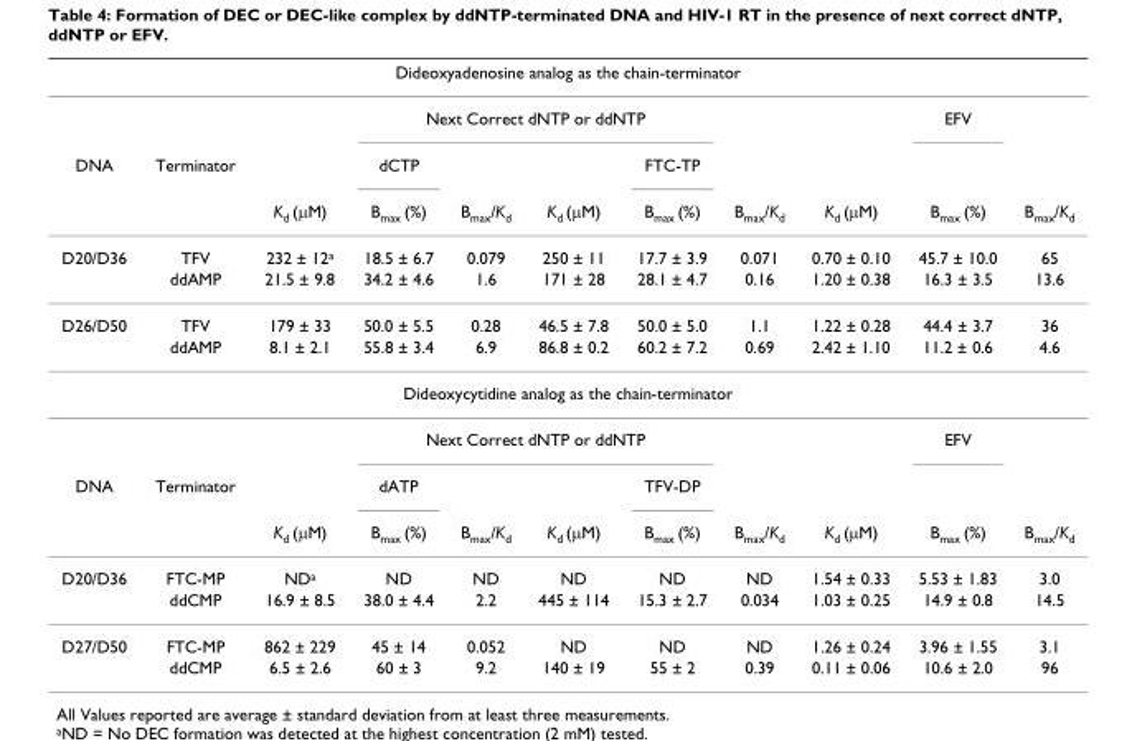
<table><thead><tr><td colspan="11">Dideoxyadenosine analog as the chain-terminator</td></tr><tr><td rowspan="2">DNA</td><td rowspan="2">Terminator</td><td rowspan="2"></td><td colspan="4">Next Correct dNTP or ddNTP</td><td rowspan="2"></td><td rowspan="2"></td><td rowspan="2">EFV</td><td rowspan="2"></td></tr><tr><td>dCTP</td><td></td><td></td><td>FTC-TP</td></tr></thead><tbody><tr><td></td><td></td><td>K<sub>d</sub> (μM)</td><td>B<sub>max</sub> (%)</td><td>B<sub>max</sub>/K<sub>d</sub></td><td>K<sub>d</sub> (μM)</td><td>B<sub>max</sub> (%)</td><td>B<sub>max</sub>/K<sub>d</sub></td><td>K<sub>d</sub> (μM)</td><td>B<sub>max</sub> (%)</td><td>B<sub>max</sub>/K<sub>d</sub></td></tr><tr><td rowspan="2">D20/D36</td><td>TFV</td><td>232 ± 12<sup>a</sup></td><td>18.5 ± 6.7</td><td>0.079</td><td>250 ± 11</td><td>17.7 ± 3.9</td><td>0.071</td><td>0.70 ± 0.10</td><td>45.7 ± 10.0</td><td>65</td></tr><tr><td>ddAMP</td><td>21.5 ± 9.8</td><td>34.2 ± 4.6</td><td>1.6</td><td>171 ± 28</td><td>28.1 ± 4.7</td><td>0.16</td><td>1.20 ± 0.38</td><td>16.3 ± 3.5</td><td>13.6</td></tr><tr><td rowspan="2">D26/D50</td><td>TFV</td><td>179 ± 33</td><td>50.0 ± 5.5</td><td>0.28</td><td>46.5 ± 7.8</td><td>50.0 ± 5.0</td><td>1.1</td><td>1.22 ± 0.28</td><td>44.4 ± 3.7</td><td>36</td></tr><tr><td>ddAMP</td><td>8.1 ± 2.1</td><td>55.8 ± 3.4</td><td>6.9</td><td>86.8 ± 0.2</td><td>60.2 ± 7.2</td><td>0.69</td><td>2.42 ± 1.10</td><td>11.2 ± 0.6</td><td>4.6</td></tr><tr><td colspan="11">Dideoxycytidine analog as the chain-terminator</td></tr><tr><td></td><td></td><td></td><td colspan="4">Next Correct dNTP or ddNTP</td><td></td><td></td><td>EFV</td><td></td></tr><tr><td rowspan="2">DNA</td><td>Terminator</td><td></td><td>dATP</td><td></td><td></td><td>TFV-DP</td><td></td><td></td><td></td><td></td></tr><tr><td></td><td>K<sub>d</sub> (μM)</td><td>B<sub>max</sub> (%)</td><td>B<sub>max</sub>/K<sub>d</sub></td><td>K<sub>d</sub> (μM)</td><td>B<sub>max</sub> (%)</td><td>B<sub>max</sub>/K<sub>d</sub></td><td>K<sub>d</sub> (μM)</td><td>B<sub>max</sub> (%)</td><td>B<sub>max</sub>/K<sub>d</sub></td></tr><tr><td rowspan="2">D20/D36</td><td>FTC-MP</td><td>ND<sup>a</sup></td><td>ND</td><td>ND</td><td>ND</td><td>ND</td><td>ND</td><td>1.54 ± 0.33</td><td>5.53 ± 1.83</td><td>3.0</td></tr><tr><td>ddCMP</td><td>16.9 ± 8.5</td><td>38.0 ± 4.4</td><td>2.2</td><td>445 ± 114</td><td>15.3 ± 2.7</td><td>0.034</td><td>1.03 ± 0.25</td><td>14.9 ± 0.8</td><td>14.5</td></tr><tr><td rowspan="2">D27/D50</td><td>FTC-MP</td><td>862 ± 229</td><td>45 ± 14</td><td>0.052</td><td>ND</td><td>ND</td><td>ND</td><td>1.26 ± 0.24</td><td>3.96 ± 1.55</td><td>3.1</td></tr><tr><td>ddCMP</td><td>6.5 ± 2.6</td><td>60 ± 3</td><td>9.2</td><td>140 ± 19</td><td>55 ± 2</td><td>0.39</td><td>0.11 ± 0.06</td><td>10.6 ± 2.0</td><td>96</td></tr></tbody></table>